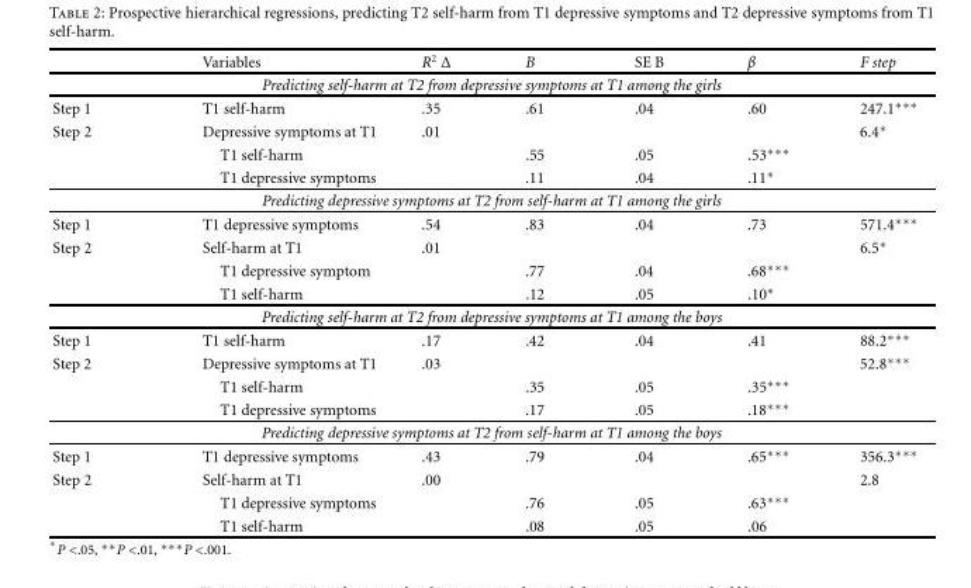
<table><thead><tr><td></td><td>Variables</td><td>R2 Δ</td><td>B</td><td>SE B</td><td>β</td><td>F step</td></tr></thead><tbody><tr><td colspan="7">Predicting self-harm at T2 from depressive symptoms at T1 among the girls</td></tr><tr><td>Step 1</td><td>T1 self-harm</td><td>.35</td><td>.61</td><td>.04</td><td>.60</td><td>247.1∗∗∗</td></tr><tr><td rowspan="3">Step 2</td><td>Depressive symptoms at T1</td><td>.01</td><td></td><td></td><td></td><td>6.4∗</td></tr><tr><td>T1 self-harm</td><td></td><td>.55</td><td>.05</td><td>.53∗∗∗</td><td></td></tr><tr><td>T1 depressive symptoms</td><td></td><td>.11</td><td>.04</td><td>.11∗</td><td></td></tr><tr><td colspan="7">Predicting depressive symptoms at T2 from self-harm at T1 among the girls</td></tr><tr><td>Step 1</td><td>T1 depressive symptoms</td><td>.54</td><td>.83</td><td>.04</td><td>.73</td><td>571.4∗∗∗</td></tr><tr><td rowspan="3">Step 2</td><td>Self-harm at T1</td><td>.01</td><td></td><td></td><td></td><td>6.5∗</td></tr><tr><td>T1 depressive symptom</td><td></td><td>.77</td><td>.04</td><td>.68∗∗∗</td><td></td></tr><tr><td>T1 self-harm</td><td></td><td>.12</td><td>.05</td><td>.10∗</td><td></td></tr><tr><td colspan="7">Predicting self-harm at T2 from depressive symptoms at T1 among the boys</td></tr><tr><td>Step 1</td><td>T1 self-harm</td><td>.17</td><td>.42</td><td>.04</td><td>.41</td><td>88.2∗∗∗</td></tr><tr><td rowspan="3">Step 2</td><td>Depressive symptoms at T1</td><td>.03</td><td></td><td></td><td></td><td>52.8∗∗∗</td></tr><tr><td>T1 self-harm</td><td></td><td>.35</td><td>.05</td><td>.35∗∗∗</td><td></td></tr><tr><td>T1 depressive symptoms</td><td></td><td>.17</td><td>.05</td><td>.18∗∗∗</td><td></td></tr><tr><td colspan="7">Predicting depressive symptoms at T2 from self-harm at T1 among the boys</td></tr><tr><td>Step 1</td><td>T1 depressive symptoms</td><td>.43</td><td>.79</td><td>.04</td><td>.65∗∗∗</td><td>356.3∗∗∗</td></tr><tr><td rowspan="3">Step 2</td><td>Self-harm at T1</td><td>.00</td><td></td><td></td><td></td><td>2.8</td></tr><tr><td>T1 depressive symptoms</td><td></td><td>.76</td><td>.05</td><td>.63∗∗∗</td><td></td></tr><tr><td>T1 self-harm</td><td></td><td>.08</td><td>.05</td><td>.06</td><td></td></tr></tbody></table>